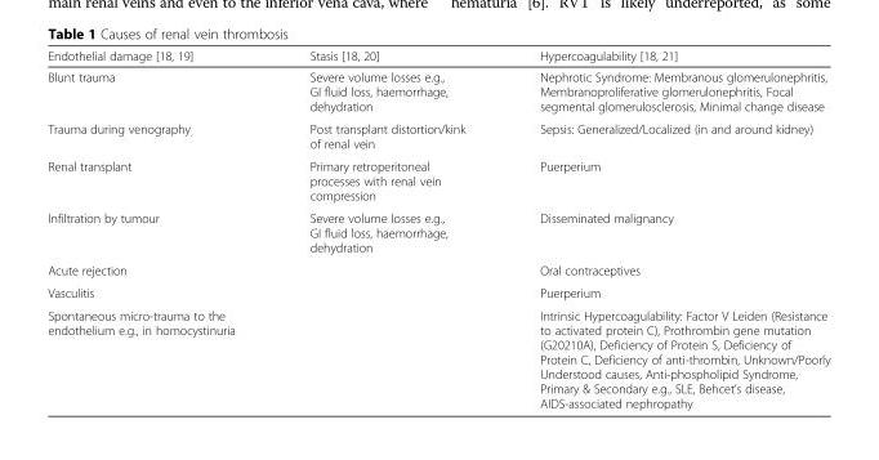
<table><thead><tr><td>Endothelial damage [18, 19]</td><td>Stasis [18, 20]</td><td>Hypercoagulability [18, 21]</td></tr></thead><tbody><tr><td>Blunt trauma</td><td>Severe volume losses e.g., GI fluid loss, haemorrhage, dehydration</td><td>Nephrotic Syndrome: Membranous glomerulonephritis, Membranoproliferative glomerulonephritis, Focal segmental glomerulosclerosis, Minimal change disease</td></tr><tr><td>Trauma during venography</td><td>Post transplant distortion/kink of renal vein</td><td>Sepsis: Generalized/Localized (in and around kidney)</td></tr><tr><td>Renal transplant</td><td>Primary retroperitoneal processes with renal vein compression</td><td>Puerperium</td></tr><tr><td>Infiltration by tumour</td><td>Severe volume losses e.g., GI fluid loss, haemorrhage, dehydration</td><td>Disseminated malignancy</td></tr><tr><td>Acute rejection</td><td></td><td>Oral contraceptives</td></tr><tr><td>Vasculitis</td><td></td><td>Puerperium</td></tr><tr><td>Spontaneous micro-trauma to the endothelium e.g., in homocystinuria</td><td></td><td>Intrinsic Hypercoagulability: Factor V Leiden (Resistance to activated protein C), Prothrombin gene mutation (G20210A), Deficiency of Protein S, Deficiency of Protein C, Deficiency of anti-thrombin, Unknown/Poorly Understood causes, Anti-phospholipid Syndrome, Primary &amp; Secondary e.g., SLE, Behcet’s disease, AIDS-associated nephropathy</td></tr></tbody></table>